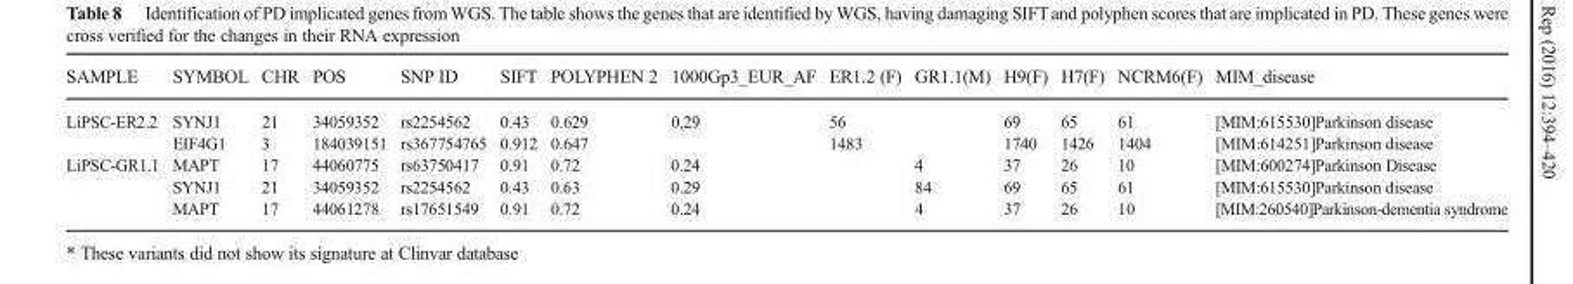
<table><thead><tr><td>SAMPLE</td><td>SYMBOL</td><td>CHR</td><td>POS</td><td>SNP ID</td><td>SIFT</td><td>POLYPHEN 2</td><td>1000Gp3_EUR_AF</td><td>ER1.2 (F)</td><td>GR1.1(M)</td><td>H9(F)</td><td>H7(F)</td><td>NCRM6(F)</td><td>MIM_disease</td></tr></thead><tbody><tr><td rowspan="2">LiPSC-ER2.2</td><td>SYNJ1</td><td>21</td><td>34059352</td><td>rs2254562</td><td>0.43</td><td>0.629</td><td>0.29</td><td>56</td><td></td><td>69</td><td>65</td><td>61</td><td>[MIM:615530]Parkinson disease</td></tr><tr><td>EIF4G1</td><td>3</td><td>184039151</td><td>rs367754765</td><td>0.912</td><td>0.647</td><td></td><td>1483</td><td></td><td>1740</td><td>1426</td><td>1404</td><td>[MIM:614251]Parkinson disease</td></tr><tr><td rowspan="3">LiPSC-GR1.1</td><td>MAPT</td><td>17</td><td>44060775</td><td>rs63750417</td><td>0.91</td><td>0.72</td><td>0.24</td><td></td><td>4</td><td>37</td><td>26</td><td>10</td><td>[MIM:600274]Parkinson Disease</td></tr><tr><td>SYNJ1</td><td>21</td><td>34059352</td><td>rs2254562</td><td>0.43</td><td>0.63</td><td>0.29</td><td></td><td>84</td><td>69</td><td>65</td><td>61</td><td>[MIM:615530]Parkinson disease</td></tr><tr><td>MAPT</td><td>17</td><td>44061278</td><td>rs17651549</td><td>0.91</td><td>0.72</td><td>0.24</td><td></td><td>4</td><td>37</td><td>26</td><td>10</td><td>[MIM:260540]Parkinson-dementia syndrome</td></tr></tbody></table>